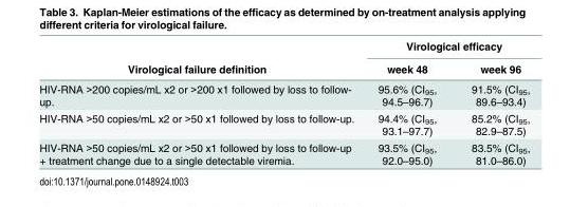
<table><thead><tr><td rowspan="2">Virological failure definition</td><td colspan="2">Virological efficacy</td></tr><tr><td>week 48</td><td>week 96</td></tr></thead><tbody><tr><td>HIV-RNA &gt;200 copies/mL x2 or &gt;200 x1 followed by loss to follow- up.</td><td>95.6% (CI<sub>95</sub>, 94.5–96.7)</td><td>91.5% (CI<sub>95</sub>, 89.6–93.4)</td></tr><tr><td>HIV-RNA &gt;50 copies/mL x2 or &gt;50 x1 followed by loss to follow-up.</td><td>94.4% (CI<sub>95</sub>, 93.1–97.7)</td><td>85.2% (CI<sub>95</sub>, 82.9–87.5)</td></tr><tr><td>HIV-RNA &gt;50 copies/mL x2 or &gt;50 x1 followed by loss to follow-up + treatment change due to a single detectable viremia.</td><td>93.5% (CI<sub>95</sub>, 92.0–95.0)</td><td>83.5% (CI<sub>95</sub>, 81.0–86.0)</td></tr></tbody></table>